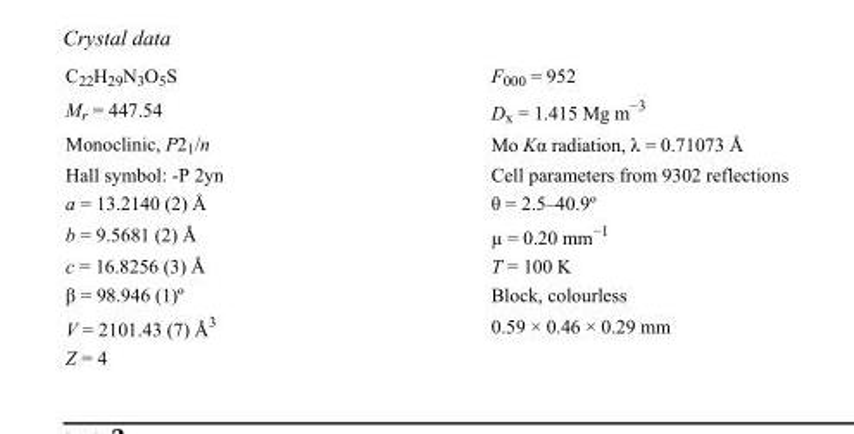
<table><tbody><tr><td>C<sub>22</sub>H<sub>29</sub>N<sub>3</sub>O<sub>5</sub>S</td><td>F000 = 952</td></tr><tr><td>M<sub>r</sub> = 447.54</td><td>D<sub>x</sub> = 1.415 Mg m<sup>−3</sup></td></tr><tr><td>Monoclinic, P2<sub>1</sub>/n</td><td>Mo Kα radiation, λ = 0.71073 Å</td></tr><tr><td>Hall symbol: -P 2yn</td><td>Cell parameters from 9302 reflections</td></tr><tr><td>a = 13.2140 (2) Å</td><td>θ = 2.5–40.9º</td></tr><tr><td>b = 9.5681 (2) Å</td><td>µ = 0.20 mm<sup>−1</sup></td></tr><tr><td>c = 16.8256 (3) Å</td><td>T = 100 K</td></tr><tr><td>β = 98.946 (1)º</td><td>Block, colourless</td></tr><tr><td>V = 2101.43 (7) Å<sup>3</sup></td><td>0.59 × 0.46 × 0.29 mm</td></tr><tr><td>Z = 4</td><td></td></tr></tbody></table>